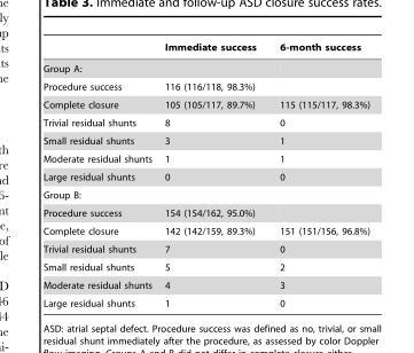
<table><thead><tr><td></td><td>Immediate success</td><td>6-month success</td></tr></thead><tbody><tr><td colspan="3">Group A:</td></tr><tr><td>Procedure success</td><td>116 (116/118, 98.3%)</td><td></td></tr><tr><td>Complete closure</td><td>105 (105/117, 89.7%)</td><td>115 (115/117, 98.3%)</td></tr><tr><td>Trivial residual shunts</td><td>8</td><td>0</td></tr><tr><td>Small residual shunts</td><td>3</td><td>1</td></tr><tr><td>Moderate residual shunts</td><td>1</td><td>1</td></tr><tr><td>Large residual shunts</td><td>0</td><td>0</td></tr><tr><td colspan="3">Group B:</td></tr><tr><td>Procedure success</td><td>154 (154/162, 95.0%)</td><td></td></tr><tr><td>Complete closure</td><td>142 (142/159, 89.3%)</td><td>151 (151/156, 96.8%)</td></tr><tr><td>Trivial residual shunts</td><td>7</td><td>0</td></tr><tr><td>Small residual shunts</td><td>5</td><td>2</td></tr><tr><td>Moderate residual shunts</td><td>4</td><td>3</td></tr><tr><td>Large residual shunts</td><td>1</td><td>0</td></tr></tbody></table>